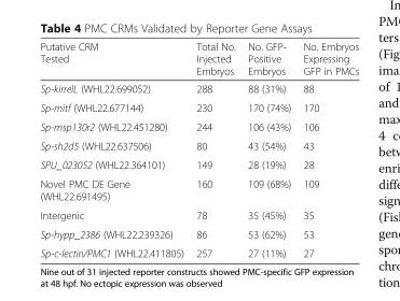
<table><thead><tr><td>Putative CRM Tested</td><td>Total No. Injected Embryos</td><td>No. GFP- Positive Embryos</td><td>No. Embryos Expressing GFP in PMCs</td></tr></thead><tbody><tr><td>Sp-kirrelL (WHL22.699052)</td><td>288</td><td>88 (31%)</td><td>88</td></tr><tr><td>Sp-mitf (WHL22.677144)</td><td>230</td><td>170 (74%)</td><td>170</td></tr><tr><td>Sp-msp130r2 (WHL22.451280)</td><td>244</td><td>106 (43%)</td><td>106</td></tr><tr><td>Sp-sh2d5 (WHL22.637506)</td><td>80</td><td>43 (54%)</td><td>43</td></tr><tr><td>SPU_023052 (WHL22.364101)</td><td>149</td><td>28 (19%)</td><td>28</td></tr><tr><td>Novel PMC DE Gene (WHL22.691495)</td><td>160</td><td>109 (68%)</td><td>109</td></tr><tr><td>Intergenic</td><td>78</td><td>35 (45%)</td><td>35</td></tr><tr><td>Sp-hypp_2386 (WHL22.239326)</td><td>86</td><td>53 (62%)</td><td>53</td></tr><tr><td>Sp-c-lectin/PMC1 (WHL22.411805)</td><td>257</td><td>27 (11%)</td><td>27</td></tr></tbody></table>